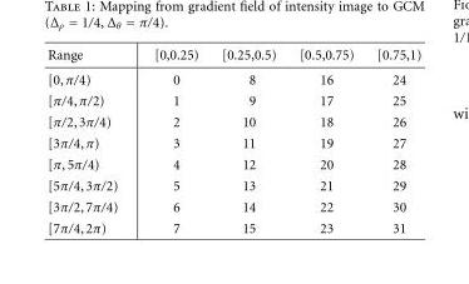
<table><tbody><tr><td>Range</td><td>[0,0.25)</td><td>[0.25,0.5)</td><td>[0.5,0.75)</td><td>[0.75,1)</td></tr><tr><td>[0,π/4)</td><td>0</td><td>8</td><td>16</td><td>24</td></tr><tr><td>[π/4,π/2)</td><td>1</td><td>9</td><td>17</td><td>25</td></tr><tr><td>[π/2,3π/4)</td><td>2</td><td>10</td><td>18</td><td>26</td></tr><tr><td>[3π/4,π)</td><td>3</td><td>11</td><td>19</td><td>27</td></tr><tr><td>[π,5π/4)</td><td>4</td><td>12</td><td>20</td><td>28</td></tr><tr><td>[5π/4,3π/2)</td><td>5</td><td>13</td><td>21</td><td>29</td></tr><tr><td>[3π/2,7π/4)</td><td>6</td><td>14</td><td>22</td><td>30</td></tr><tr><td>[7π/4,2π)</td><td>7</td><td>15</td><td>23</td><td>31</td></tr></tbody></table>